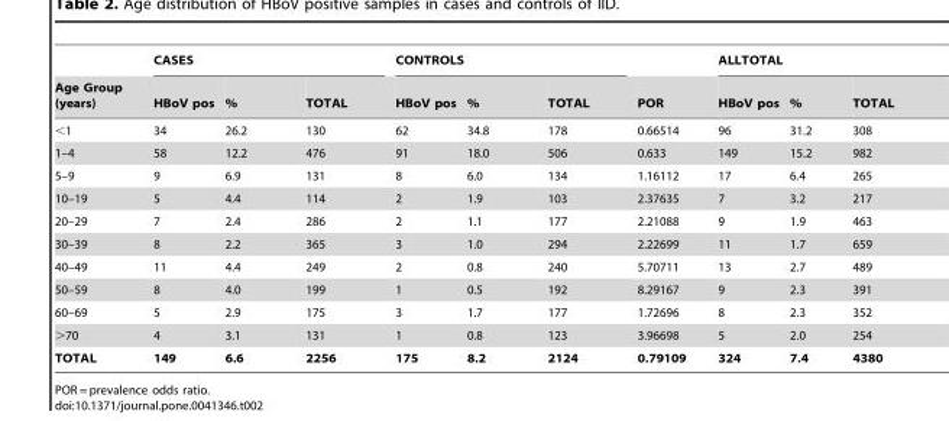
<table><thead><tr><td rowspan="2">Age Group (years)</td><td colspan="3">CASES</td><td colspan="3">CONTROLS</td><td rowspan="2">POR</td><td colspan="3">ALLTOTAL</td></tr><tr><td>HBoV pos</td><td>%</td><td>TOTAL</td><td>HBoV pos</td><td>%</td><td>TOTAL</td><td>HBoV pos</td><td>%</td><td>TOTAL</td></tr></thead><tbody><tr><td>&lt;1</td><td>34</td><td>26.2</td><td>130</td><td>62</td><td>34.8</td><td>178</td><td>0.66514</td><td>96</td><td>31.2</td><td>308</td></tr><tr><td>1–4</td><td>58</td><td>12.2</td><td>476</td><td>91</td><td>18.0</td><td>506</td><td>0.633</td><td>149</td><td>15.2</td><td>982</td></tr><tr><td>5–9</td><td>9</td><td>6.9</td><td>131</td><td>8</td><td>6.0</td><td>134</td><td>1.16112</td><td>17</td><td>6.4</td><td>265</td></tr><tr><td>10–19</td><td>5</td><td>4.4</td><td>114</td><td>2</td><td>1.9</td><td>103</td><td>2.37635</td><td>7</td><td>3.2</td><td>217</td></tr><tr><td>20–29</td><td>7</td><td>2.4</td><td>286</td><td>2</td><td>1.1</td><td>177</td><td>2.21088</td><td>9</td><td>1.9</td><td>463</td></tr><tr><td>30–39</td><td>8</td><td>2.2</td><td>365</td><td>3</td><td>1.0</td><td>294</td><td>2.22699</td><td>11</td><td>1.7</td><td>659</td></tr><tr><td>40–49</td><td>11</td><td>4.4</td><td>249</td><td>2</td><td>0.8</td><td>240</td><td>5.70711</td><td>13</td><td>2.7</td><td>489</td></tr><tr><td>50–59</td><td>8</td><td>4.0</td><td>199</td><td>1</td><td>0.5</td><td>192</td><td>8.29167</td><td>9</td><td>2.3</td><td>391</td></tr><tr><td>60–69</td><td>5</td><td>2.9</td><td>175</td><td>3</td><td>1.7</td><td>177</td><td>1.72696</td><td>8</td><td>2.3</td><td>352</td></tr><tr><td>&gt;70</td><td>4</td><td>3.1</td><td>131</td><td>1</td><td>0.8</td><td>123</td><td>3.96698</td><td>5</td><td>2.0</td><td>254</td></tr><tr><td>TOTAL</td><td>149</td><td>6.6</td><td>2256</td><td>175</td><td>8.2</td><td>2124</td><td>0.79109</td><td>324</td><td>7.4</td><td>4380</td></tr></tbody></table>